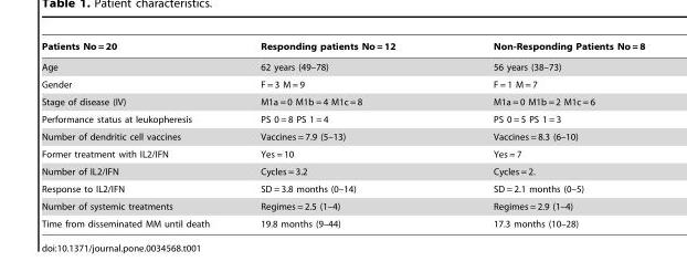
<table><thead><tr><td>Patients No = 20</td><td>Responding patients No = 12</td><td>Non-Responding Patients No = 8</td></tr></thead><tbody><tr><td>Age</td><td>62 years (49–78)</td><td>56 years (38–73)</td></tr><tr><td>Gender</td><td>F = 3 M = 9</td><td>F = 1 M = 7</td></tr><tr><td>Stage of disease (IV)</td><td>M1a = 0 M1b = 4 M1c = 8</td><td>M1a = 0 M1b = 2 M1c = 6</td></tr><tr><td>Performance status at leukopheresis</td><td>PS 0 = 8 PS 1 = 4</td><td>PS 0 = 5 PS 1 = 3</td></tr><tr><td>Number of dendritic cell vaccines</td><td>Vaccines = 7.9 (5–13)</td><td>Vaccines = 8.3 (6–10)</td></tr><tr><td>Former treatment with IL2/IFN</td><td>Yes = 10</td><td>Yes = 7</td></tr><tr><td>Number of IL2/IFN</td><td>Cycles = 3.2</td><td>Cycles = 2.</td></tr><tr><td>Response to IL2/IFN</td><td>SD = 3.8 months (0–14)</td><td>SD = 2.1 months (0–5)</td></tr><tr><td>Number of systemic treatments</td><td>Regimes = 2.5 (1–4)</td><td>Regimes = 2.9 (1–4)</td></tr><tr><td>Time from disseminated MM until death</td><td>19.8 months (9–44)</td><td>17.3 months (10–28)</td></tr></tbody></table>